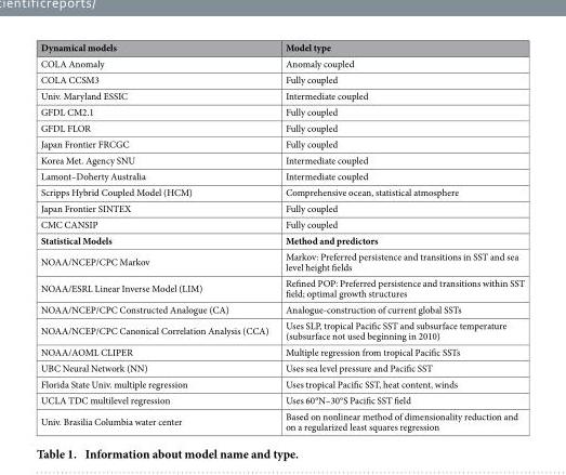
<table><thead><tr><td>Dynamical models</td><td>Model type</td></tr></thead><tbody><tr><td>COLA Anomaly</td><td>Anomaly coupled</td></tr><tr><td>COLA CCSM3</td><td>Fully coupled</td></tr><tr><td>Univ. Maryland ESSIC</td><td>Intermediate coupled</td></tr><tr><td>GFDL CM2.1</td><td>Fully coupled</td></tr><tr><td>GFDL FLOR</td><td>Fully coupled</td></tr><tr><td>Japan Frontier FRCGC</td><td>Fully coupled</td></tr><tr><td>Korea Met. Agency SNU</td><td>Intermediate coupled</td></tr><tr><td>Lamont–Doherty Australia</td><td>Intermediate coupled</td></tr><tr><td>Scripps Hybrid Coupled Model (HCM)</td><td>Comprehensive ocean, statistical atmosphere</td></tr><tr><td>Japan Frontier SINTEX</td><td>Fully coupled</td></tr><tr><td>CMC CANSIP</td><td>Fully coupled</td></tr><tr><td>Statistical Models</td><td>Method and predictors</td></tr><tr><td>NOAA/NCEP/CPC Markov</td><td>Markov: Preferred persistence and transitions in SST and sea level height fields</td></tr><tr><td>NOAA/ESRL Linear Inverse Model (LIM)</td><td>Refined POP: Preferred persistence and transitions within SST field; optimal growth structures</td></tr><tr><td>NOAA/NCEP/CPC Constructed Analogue (CA)</td><td>Analogue-construction of current global SSTs</td></tr><tr><td>NOAA/NCEP/CPC Canonical Correlation Analysis (CCA)</td><td>Uses SLP, tropical Pacific SST and subsurface temperature (subsurface not used beginning in 2010)</td></tr><tr><td>NOAA/AOML CLIPER</td><td>Multiple regression from tropical Pacific SSTs</td></tr><tr><td>UBC Neural Network (NN)</td><td>Uses sea level pressure and Pacific SST</td></tr><tr><td>Florida State Univ. multiple regression</td><td>Uses tropical Pacific SST, heat content, winds</td></tr><tr><td>UCLA TDC multilevel regression</td><td>Uses 60°N–30°S Pacific SST field</td></tr><tr><td>Univ. Brasilia Columbia water center</td><td>Based on nonlinear method of dimensionality reduction and on a regularized least squares regression</td></tr></tbody></table>